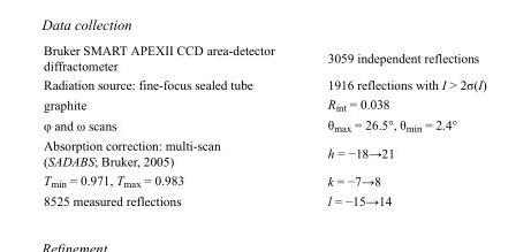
<table><tbody><tr><td>Bruker SMART APEXII CCD area-detector diffractometer</td><td>3059 independent reflections</td></tr><tr><td>Radiation source: fine-focus sealed tube</td><td>1916 reflections with I &gt; 2σ(I)</td></tr><tr><td>graphite</td><td>R<sub>int</sub> = 0.038</td></tr><tr><td>φ and ω scans</td><td>θ<sub>max</sub> = 26.5°, θ<sub>min</sub> = 2.4°</td></tr><tr><td>Absorption correction: multi-scan (SADABS; Bruker, 2005)</td><td>h = −18→21</td></tr><tr><td>T<sub>min</sub> = 0.971, T<sub>max</sub> = 0.983</td><td>k = −7→8</td></tr><tr><td>8525 measured reflections</td><td>l = −15→14</td></tr></tbody></table>